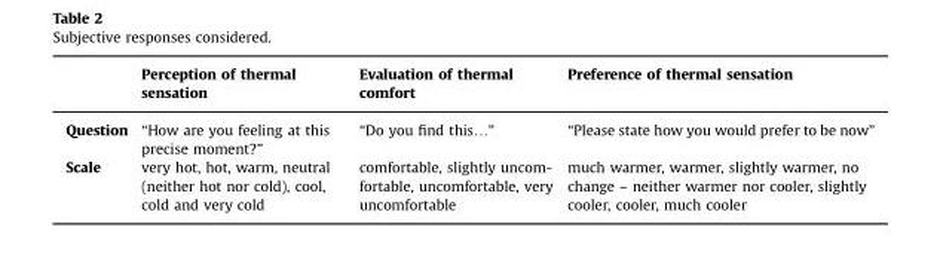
<table><thead><tr><td></td><td>Perception of thermal sensation</td><td>Evaluation of thermal comfort</td><td>Preference of thermal sensation</td></tr></thead><tbody><tr><td>Question</td><td>“How are you feeling at this precise moment?”</td><td>“Do you find this…”</td><td>“Please state how you would prefer to be now”</td></tr><tr><td>Scale</td><td>very hot, hot, warm, neutral (neither hot nor cold), cool, cold and very cold</td><td>comfortable, slightly uncom- fortable, uncomfortable, very uncomfortable</td><td>much warmer, warmer, slightly warmer, no change – neither warmer nor cooler, slightly cooler, cooler, much cooler</td></tr></tbody></table>